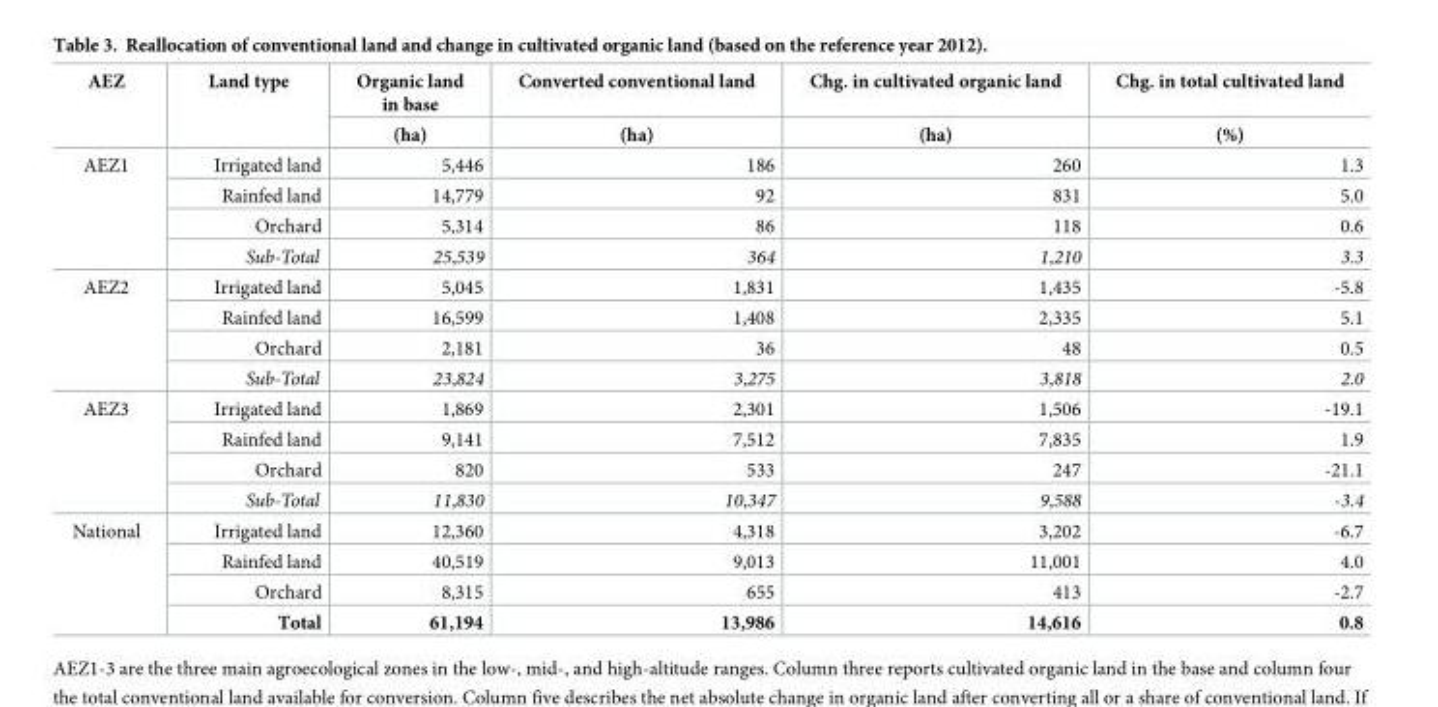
<table><thead><tr><td rowspan="2">AEZ</td><td rowspan="2">Land type</td><td rowspan="2">Organic land in base (ha)</td><td rowspan="2">Converted conventional land (ha)</td><td rowspan="2">Chg. in cultivated organic land (ha)</td><td rowspan="2">Chg. in total cultivated land (%)</td></tr><tr></tr></thead><tbody><tr><td rowspan="4">AEZ1</td><td>Irrigated land</td><td>5,446</td><td>186</td><td>260</td><td>1.3</td></tr><tr><td>Rainfed land</td><td>14,779</td><td>92</td><td>831</td><td>5.0</td></tr><tr><td>Orchard</td><td>5,314</td><td>86</td><td>118</td><td>0.6</td></tr><tr><td>Sub-Total</td><td>25,539</td><td>364</td><td>1,210</td><td>3.3</td></tr><tr><td rowspan="4">AEZ2</td><td>Irrigated land</td><td>5,045</td><td>1,831</td><td>1,435</td><td>-5.8</td></tr><tr><td>Rainfed land</td><td>16,599</td><td>1,408</td><td>2,335</td><td>5.1</td></tr><tr><td>Orchard</td><td>2,181</td><td>36</td><td>48</td><td>0.5</td></tr><tr><td>Sub-Total</td><td>23,824</td><td>3,275</td><td>3,818</td><td>2.0</td></tr><tr><td rowspan="4">AEZ3</td><td>Irrigated land</td><td>1,869</td><td>2,301</td><td>1,506</td><td>-19.1</td></tr><tr><td>Rainfed land</td><td>9,141</td><td>7,512</td><td>7,835</td><td>1.9</td></tr><tr><td>Orchard</td><td>820</td><td>533</td><td>247</td><td>-21.1</td></tr><tr><td>Sub-Total</td><td>11,830</td><td>10,347</td><td>9,588</td><td>-3.4</td></tr><tr><td rowspan="4">National</td><td>Irrigated land</td><td>12,360</td><td>4,318</td><td>3,202</td><td>-6.7</td></tr><tr><td>Rainfed land</td><td>40,519</td><td>9,013</td><td>11,001</td><td>4.0</td></tr><tr><td>Orchard</td><td>8,315</td><td>655</td><td>413</td><td>-2.7</td></tr><tr><td>Total</td><td>61,194</td><td>13,986</td><td>14,616</td><td>0.8</td></tr></tbody></table>